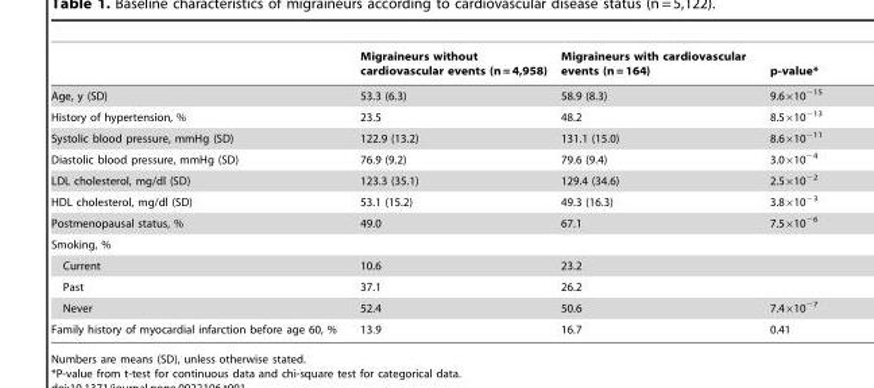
<table><thead><tr><td></td><td>Migraineurs without cardiovascular events (n = 4,958)</td><td>Migraineurs with cardiovascular events (n = 164)</td><td>p-value*</td></tr></thead><tbody><tr><td>Age, y (SD)</td><td>53.3 (6.3)</td><td>58.9 (8.3)</td><td>9.6×10<sup>−15</sup></td></tr><tr><td>History of hypertension, %</td><td>23.5</td><td>48.2</td><td>8.5×10<sup>−13</sup></td></tr><tr><td>Systolic blood pressure, mmHg (SD)</td><td>122.9 (13.2)</td><td>131.1 (15.0)</td><td>8.6×10<sup>−11</sup></td></tr><tr><td>Diastolic blood pressure, mmHg (SD)</td><td>76.9 (9.2)</td><td>79.6 (9.4)</td><td>3.0×10<sup>−4</sup></td></tr><tr><td>LDL cholesterol, mg/dl (SD)</td><td>123.3 (35.1)</td><td>129.4 (34.6)</td><td>2.5×10<sup>−2</sup></td></tr><tr><td>HDL cholesterol, mg/dl (SD)</td><td>53.1 (15.2)</td><td>49.3 (16.3)</td><td>3.8×10<sup>−3</sup></td></tr><tr><td>Postmenopausal status, %</td><td>49.0</td><td>67.1</td><td>7.5×10<sup>−6</sup></td></tr><tr><td colspan="4">Smoking, %</td></tr><tr><td>Current</td><td>10.6</td><td>23.2</td><td></td></tr><tr><td>Past</td><td>37.1</td><td>26.2</td><td></td></tr><tr><td>Never</td><td>52.4</td><td>50.6</td><td>7.4×10<sup>−7</sup></td></tr><tr><td>Family history of myocardial infarction before age 60, %</td><td>13.9</td><td>16.7</td><td>0.41</td></tr></tbody></table>